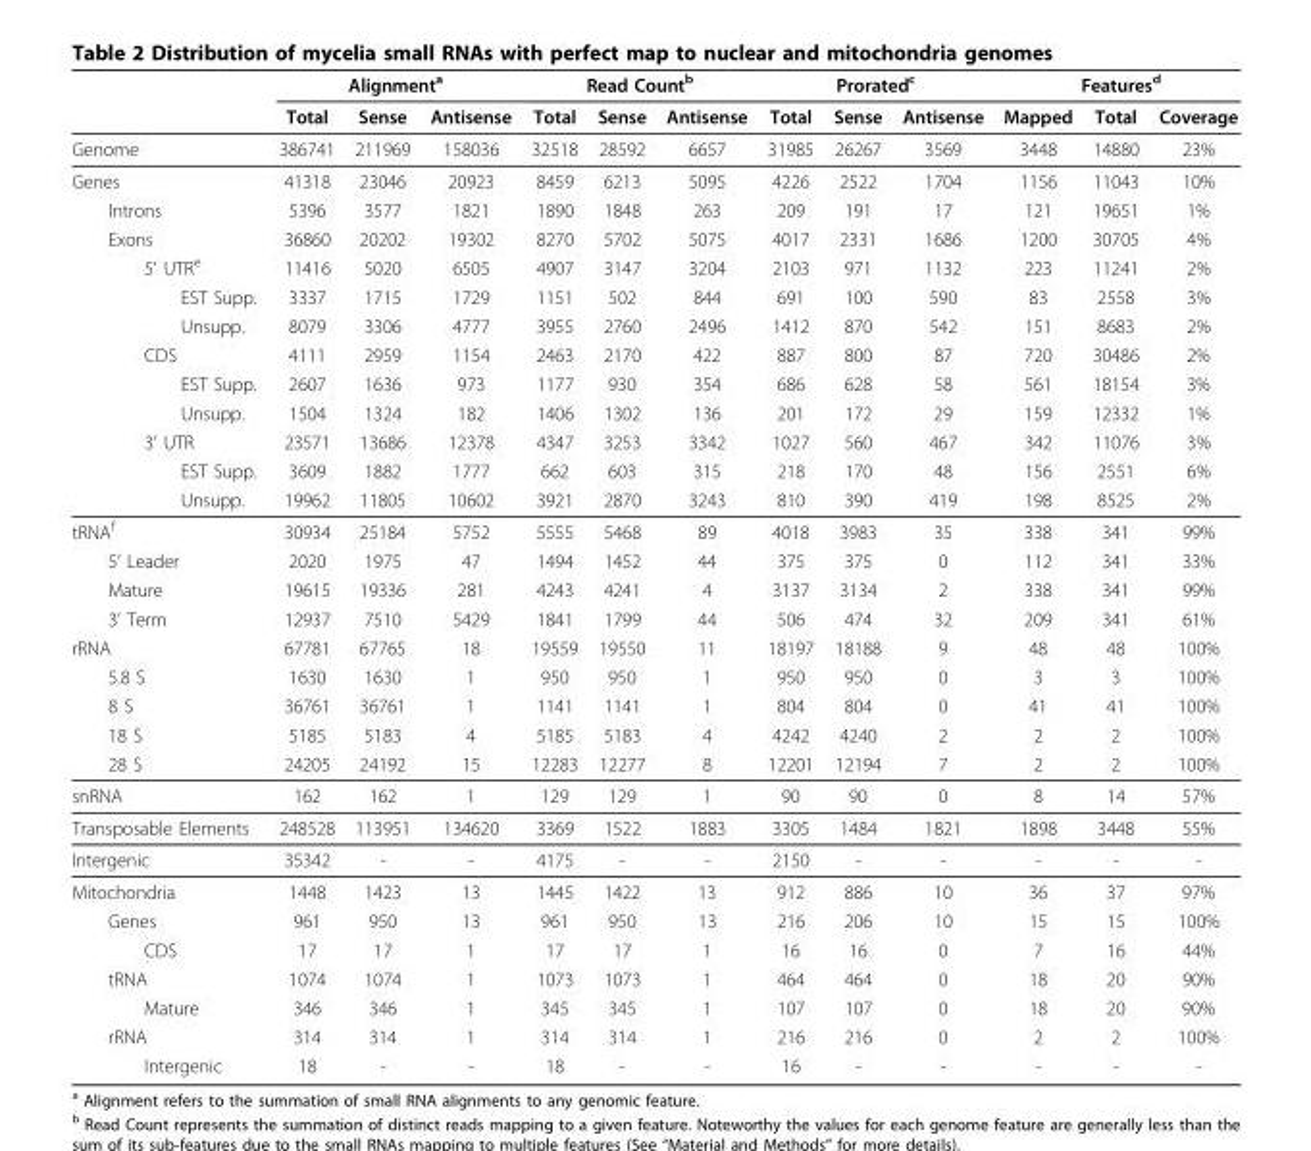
<table><thead><tr><td rowspan="2"></td><td colspan="3">Alignment<sup>a</sup></td><td colspan="3">Read Count<sup>b</sup></td><td colspan="3">Prorated<sup>c</sup></td><td colspan="3">Features<sup>d</sup></td></tr><tr><td>Total</td><td>Sense</td><td>Antisense</td><td>Total</td><td>Sense</td><td>Antisense</td><td>Total</td><td>Sense</td><td>Antisense</td><td>Mapped</td><td>Total</td><td>Coverage</td></tr></thead><tbody><tr><td>Genome</td><td>386741</td><td>211969</td><td>158036</td><td>32518</td><td>28592</td><td>6657</td><td>31985</td><td>26267</td><td>3569</td><td>3448</td><td>14880</td><td>23%</td></tr><tr><td>Genes</td><td>41318</td><td>23046</td><td>20923</td><td>8459</td><td>6213</td><td>5095</td><td>4226</td><td>2522</td><td>1704</td><td>1156</td><td>11043</td><td>10%</td></tr><tr><td>Introns</td><td>5396</td><td>3577</td><td>1821</td><td>1890</td><td>1848</td><td>263</td><td>209</td><td>191</td><td>17</td><td>121</td><td>19651</td><td>1%</td></tr><tr><td>Exons</td><td>36860</td><td>20202</td><td>19302</td><td>8270</td><td>5702</td><td>5075</td><td>4017</td><td>2331</td><td>1686</td><td>1200</td><td>30705</td><td>4%</td></tr><tr><td>5’ UTR<sup>e</sup></td><td>11416</td><td>5020</td><td>6505</td><td>4907</td><td>3147</td><td>3204</td><td>2103</td><td>971</td><td>1132</td><td>223</td><td>11241</td><td>2%</td></tr><tr><td>EST Supp.</td><td>3337</td><td>1715</td><td>1729</td><td>1151</td><td>502</td><td>844</td><td>691</td><td>100</td><td>590</td><td>83</td><td>2558</td><td>3%</td></tr><tr><td>Unsupp.</td><td>8079</td><td>3306</td><td>4777</td><td>3955</td><td>2760</td><td>2496</td><td>1412</td><td>870</td><td>542</td><td>151</td><td>8683</td><td>2%</td></tr><tr><td>CDS</td><td>4111</td><td>2959</td><td>1154</td><td>2463</td><td>2170</td><td>422</td><td>887</td><td>800</td><td>87</td><td>720</td><td>30486</td><td>2%</td></tr><tr><td>EST Supp.</td><td>2607</td><td>1636</td><td>973</td><td>1177</td><td>930</td><td>354</td><td>686</td><td>628</td><td>58</td><td>561</td><td>18154</td><td>3%</td></tr><tr><td>Unsupp.</td><td>1504</td><td>1324</td><td>182</td><td>1406</td><td>1302</td><td>136</td><td>201</td><td>172</td><td>29</td><td>159</td><td>12332</td><td>1%</td></tr><tr><td>3’ UTR</td><td>23571</td><td>13686</td><td>12378</td><td>4347</td><td>3253</td><td>3342</td><td>1027</td><td>560</td><td>467</td><td>342</td><td>11076</td><td>3%</td></tr><tr><td>EST Supp.</td><td>3609</td><td>1882</td><td>1777</td><td>662</td><td>603</td><td>315</td><td>218</td><td>170</td><td>48</td><td>156</td><td>2551</td><td>6%</td></tr><tr><td>Unsupp.</td><td>19962</td><td>11805</td><td>10602</td><td>3921</td><td>2870</td><td>3243</td><td>810</td><td>390</td><td>419</td><td>198</td><td>8525</td><td>2%</td></tr><tr><td>tRNA<sup>f</sup></td><td>30934</td><td>25184</td><td>5752</td><td>5555</td><td>5468</td><td>89</td><td>4018</td><td>3983</td><td>35</td><td>338</td><td>341</td><td>99%</td></tr><tr><td>5’ Leader</td><td>2020</td><td>1975</td><td>47</td><td>1494</td><td>1452</td><td>44</td><td>375</td><td>375</td><td>0</td><td>112</td><td>341</td><td>33%</td></tr><tr><td>Mature</td><td>19615</td><td>19336</td><td>281</td><td>4243</td><td>4241</td><td>4</td><td>3137</td><td>3134</td><td>2</td><td>338</td><td>341</td><td>99%</td></tr><tr><td>3’ Term</td><td>12937</td><td>7510</td><td>5429</td><td>1841</td><td>1799</td><td>44</td><td>506</td><td>474</td><td>32</td><td>209</td><td>341</td><td>61%</td></tr><tr><td>rRNA</td><td>67781</td><td>67765</td><td>18</td><td>19559</td><td>19550</td><td>11</td><td>18197</td><td>18188</td><td>9</td><td>48</td><td>48</td><td>100%</td></tr><tr><td>5.8 S</td><td>1630</td><td>1630</td><td>1</td><td>950</td><td>950</td><td>1</td><td>950</td><td>950</td><td>0</td><td>3</td><td>3</td><td>100%</td></tr><tr><td>8 S</td><td>36761</td><td>36761</td><td>1</td><td>1141</td><td>1141</td><td>1</td><td>804</td><td>804</td><td>0</td><td>41</td><td>41</td><td>100%</td></tr><tr><td>18 S</td><td>5185</td><td>5183</td><td>4</td><td>5185</td><td>5183</td><td>4</td><td>4242</td><td>4240</td><td>2</td><td>2</td><td>2</td><td>100%</td></tr><tr><td>28 S</td><td>24205</td><td>24192</td><td>15</td><td>12283</td><td>12277</td><td>8</td><td>12201</td><td>12194</td><td>7</td><td>2</td><td>2</td><td>100%</td></tr><tr><td>snRNA</td><td>162</td><td>162</td><td>1</td><td>129</td><td>129</td><td>1</td><td>90</td><td>90</td><td>0</td><td>8</td><td>14</td><td>57%</td></tr><tr><td>Transposable Elements</td><td>248528</td><td>113951</td><td>134620</td><td>3369</td><td>1522</td><td>1883</td><td>3305</td><td>1484</td><td>1821</td><td>1898</td><td>3448</td><td>55%</td></tr><tr><td>Intergenic</td><td>35342</td><td>-</td><td>-</td><td>4175</td><td>-</td><td>-</td><td>2150</td><td>-</td><td>-</td><td>-</td><td>-</td><td>-</td></tr><tr><td>Mitochondria</td><td>1448</td><td>1423</td><td>13</td><td>1445</td><td>1422</td><td>13</td><td>912</td><td>886</td><td>10</td><td>36</td><td>37</td><td>97%</td></tr><tr><td>Genes</td><td>961</td><td>950</td><td>13</td><td>961</td><td>950</td><td>13</td><td>216</td><td>206</td><td>10</td><td>15</td><td>15</td><td>100%</td></tr><tr><td>CDS</td><td>17</td><td>17</td><td>1</td><td>17</td><td>17</td><td>1</td><td>16</td><td>16</td><td>0</td><td>7</td><td>16</td><td>44%</td></tr><tr><td>tRNA</td><td>1074</td><td>1074</td><td>1</td><td>1073</td><td>1073</td><td>1</td><td>464</td><td>464</td><td>0</td><td>18</td><td>20</td><td>90%</td></tr><tr><td>Mature</td><td>346</td><td>346</td><td>1</td><td>345</td><td>345</td><td>1</td><td>107</td><td>107</td><td>0</td><td>18</td><td>20</td><td>90%</td></tr><tr><td>rRNA</td><td>314</td><td>314</td><td>1</td><td>314</td><td>314</td><td>1</td><td>216</td><td>216</td><td>0</td><td>2</td><td>2</td><td>100%</td></tr><tr><td>Intergenic</td><td>18</td><td>-</td><td>-</td><td>18</td><td>-</td><td>-</td><td>16</td><td>-</td><td>-</td><td>-</td><td>-</td><td>-</td></tr></tbody></table>